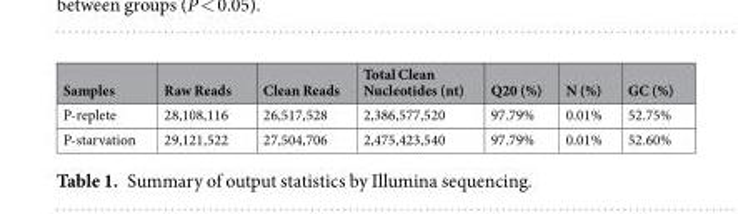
<table><thead><tr><td>Samples</td><td>Raw Reads</td><td>Clean Reads</td><td>Total Clean Nucleotides (nt)</td><td>Q20 (%)</td><td>N (%)</td><td>GC (%)</td></tr></thead><tbody><tr><td>P-replete</td><td>28,108,116</td><td>26,517,528</td><td>2,386,577,520</td><td>97.79%</td><td>0.01%</td><td>52.75%</td></tr><tr><td>P-starvation</td><td>29,121,522</td><td>27,504,706</td><td>2,475,423,540</td><td>97.79%</td><td>0.01%</td><td>52.60%</td></tr></tbody></table>